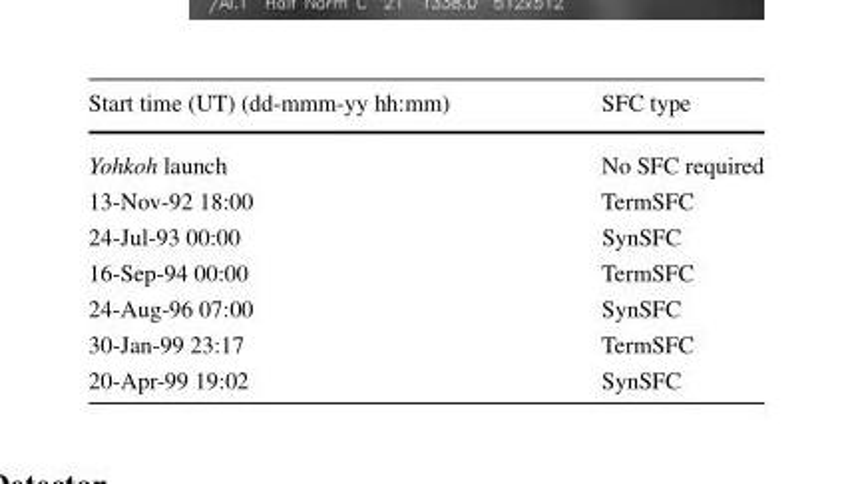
<table><thead><tr><td>Start time (UT) (dd-mmm-yy hh:mm)</td><td>SFC type</td></tr></thead><tbody><tr><td>Yohkoh launch</td><td>No SFC required</td></tr><tr><td>13-Nov-92 18:00</td><td>TermSFC</td></tr><tr><td>24-Jul-93 00:00</td><td>SynSFC</td></tr><tr><td>16-Sep-94 00:00</td><td>TermSFC</td></tr><tr><td>24-Aug-96 07:00</td><td>SynSFC</td></tr><tr><td>30-Jan-99 23:17</td><td>TermSFC</td></tr><tr><td>20-Apr-99 19:02</td><td>SynSFC</td></tr></tbody></table>